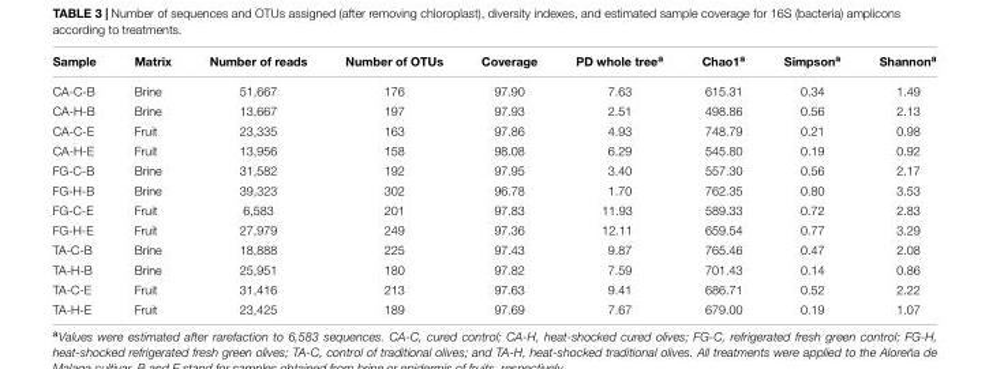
<table><thead><tr><td>Sample</td><td>Matrix</td><td>Number of reads</td><td>Number of OTUs</td><td>Coverage</td><td>PD whole tree<sup>a</sup></td><td>Chao1<sup>a</sup></td><td>Simpson<sup>a</sup></td><td>Shannon<sup>a</sup></td></tr></thead><tbody><tr><td>CA-C-B</td><td>Brine</td><td>51,667</td><td>176</td><td>97.90</td><td>7.63</td><td>615.31</td><td>0.34</td><td>1.49</td></tr><tr><td>CA-H-B</td><td>Brine</td><td>13,667</td><td>197</td><td>97.93</td><td>2.51</td><td>498.86</td><td>0.56</td><td>2.13</td></tr><tr><td>CA-C-E</td><td>Fruit</td><td>23,335</td><td>163</td><td>97.86</td><td>4.93</td><td>748.79</td><td>0.21</td><td>0.98</td></tr><tr><td>CA-H-E</td><td>Fruit</td><td>13,956</td><td>158</td><td>98.08</td><td>6.29</td><td>545.80</td><td>0.19</td><td>0.92</td></tr><tr><td>FG-C-B</td><td>Brine</td><td>31,582</td><td>192</td><td>97.95</td><td>3.40</td><td>557.30</td><td>0.56</td><td>2.17</td></tr><tr><td>FG-H-B</td><td>Brine</td><td>39,323</td><td>302</td><td>96.78</td><td>1.70</td><td>762.35</td><td>0.80</td><td>3.53</td></tr><tr><td>FG-C-E</td><td>Fruit</td><td>6,583</td><td>201</td><td>97.83</td><td>11.93</td><td>589.33</td><td>0.72</td><td>2.83</td></tr><tr><td>FG-H-E</td><td>Fruit</td><td>27,979</td><td>249</td><td>97.36</td><td>12.11</td><td>659.54</td><td>0.77</td><td>3.29</td></tr><tr><td>TA-C-B</td><td>Brine</td><td>18,888</td><td>225</td><td>97.43</td><td>9.87</td><td>765.46</td><td>0.47</td><td>2.08</td></tr><tr><td>TA-H-B</td><td>Brine</td><td>25,951</td><td>180</td><td>97.82</td><td>7.59</td><td>701.43</td><td>0.14</td><td>0.86</td></tr><tr><td>TA-C-E</td><td>Fruit</td><td>31,416</td><td>213</td><td>97.63</td><td>9.41</td><td>686.71</td><td>0.52</td><td>2.22</td></tr><tr><td>TA-H-E</td><td>Fruit</td><td>23,425</td><td>189</td><td>97.69</td><td>7.67</td><td>679.00</td><td>0.19</td><td>1.07</td></tr></tbody></table>